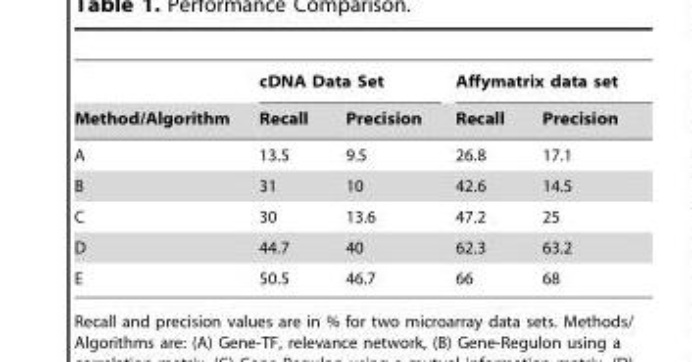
<table><thead><tr><td rowspan="2">Method/Algorithm</td><td colspan="2">cDNA Data Set</td><td colspan="2">Affymatrix data set</td></tr><tr><td>Recall</td><td>Precision</td><td>Recall</td><td>Precision</td></tr></thead><tbody><tr><td>A</td><td>13.5</td><td>9.5</td><td>26.8</td><td>17.1</td></tr><tr><td>B</td><td>31</td><td>10</td><td>42.6</td><td>14.5</td></tr><tr><td>C</td><td>30</td><td>13.6</td><td>47.2</td><td>25</td></tr><tr><td>D</td><td>44.7</td><td>40</td><td>62.3</td><td>63.2</td></tr><tr><td>E</td><td>50.5</td><td>46.7</td><td>66</td><td>68</td></tr></tbody></table>